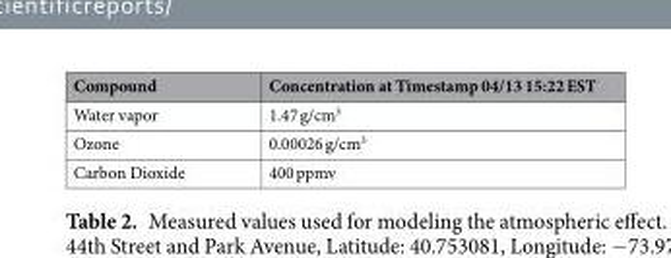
<table><thead><tr><td>Compound</td><td>Concentration at Timestamp 04/13 15:22 EST</td></tr></thead><tbody><tr><td>Water vapor</td><td>1.47 g/cm<sup>3</sup></td></tr><tr><td>Ozone</td><td>0.00026 g/cm<sup>3</sup></td></tr><tr><td>Carbon Dioxide</td><td>400 ppmv</td></tr></tbody></table>